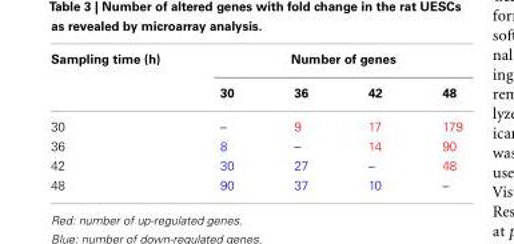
<table><thead><tr><td rowspan="2">Sampling time (h)</td><td colspan="4">Number of genes</td></tr><tr><td>30</td><td>36</td><td>42</td><td>48</td></tr></thead><tbody><tr><td>30</td><td>–</td><td>9</td><td>17</td><td>179</td></tr><tr><td>36</td><td>8</td><td>–</td><td>14</td><td>90</td></tr><tr><td>42</td><td>30</td><td>27</td><td>–</td><td>48</td></tr><tr><td>48</td><td>90</td><td>37</td><td>10</td><td>–</td></tr></tbody></table>